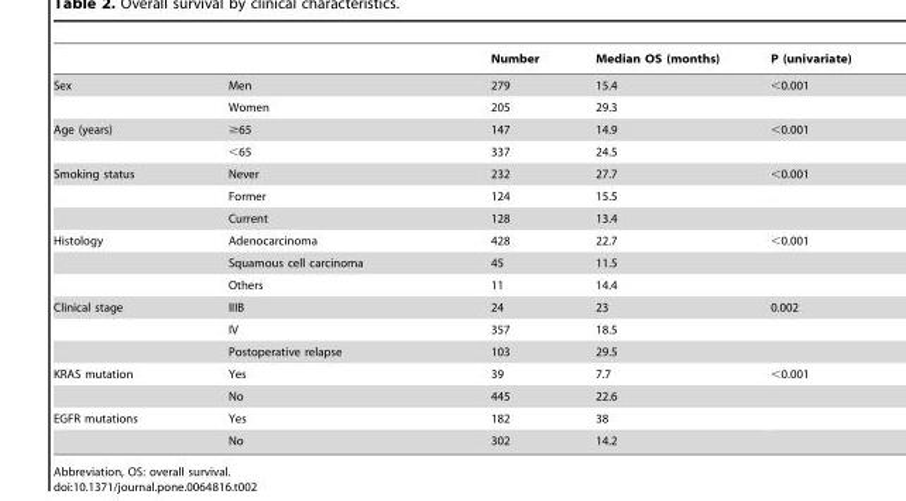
<table><thead><tr><td></td><td></td><td>Number</td><td>Median OS (months)</td><td>P (univariate)</td></tr></thead><tbody><tr><td rowspan="2">Sex</td><td>Men</td><td>279</td><td>15.4</td><td>&lt;0.001</td></tr><tr><td>Women</td><td>205</td><td>29.3</td><td></td></tr><tr><td rowspan="2">Age (years)</td><td>≥65</td><td>147</td><td>14.9</td><td>&lt;0.001</td></tr><tr><td>&lt;65</td><td>337</td><td>24.5</td><td></td></tr><tr><td rowspan="3">Smoking status</td><td>Never</td><td>232</td><td>27.7</td><td>&lt;0.001</td></tr><tr><td>Former</td><td>124</td><td>15.5</td><td></td></tr><tr><td>Current</td><td>128</td><td>13.4</td><td></td></tr><tr><td rowspan="3">Histology</td><td>Adenocarcinoma</td><td>428</td><td>22.7</td><td>&lt;0.001</td></tr><tr><td>Squamous cell carcinoma</td><td>45</td><td>11.5</td><td></td></tr><tr><td>Others</td><td>11</td><td>14.4</td><td></td></tr><tr><td rowspan="3">Clinical stage</td><td>IIIB</td><td>24</td><td>23</td><td>0.002</td></tr><tr><td>IV</td><td>357</td><td>18.5</td><td></td></tr><tr><td>Postoperative relapse</td><td>103</td><td>29.5</td><td></td></tr><tr><td rowspan="2">KRAS mutation</td><td>Yes</td><td>39</td><td>7.7</td><td>&lt;0.001</td></tr><tr><td>No</td><td>445</td><td>22.6</td><td></td></tr><tr><td rowspan="2">EGFR mutations</td><td>Yes</td><td>182</td><td>38</td><td></td></tr><tr><td>No</td><td>302</td><td>14.2</td><td></td></tr></tbody></table>